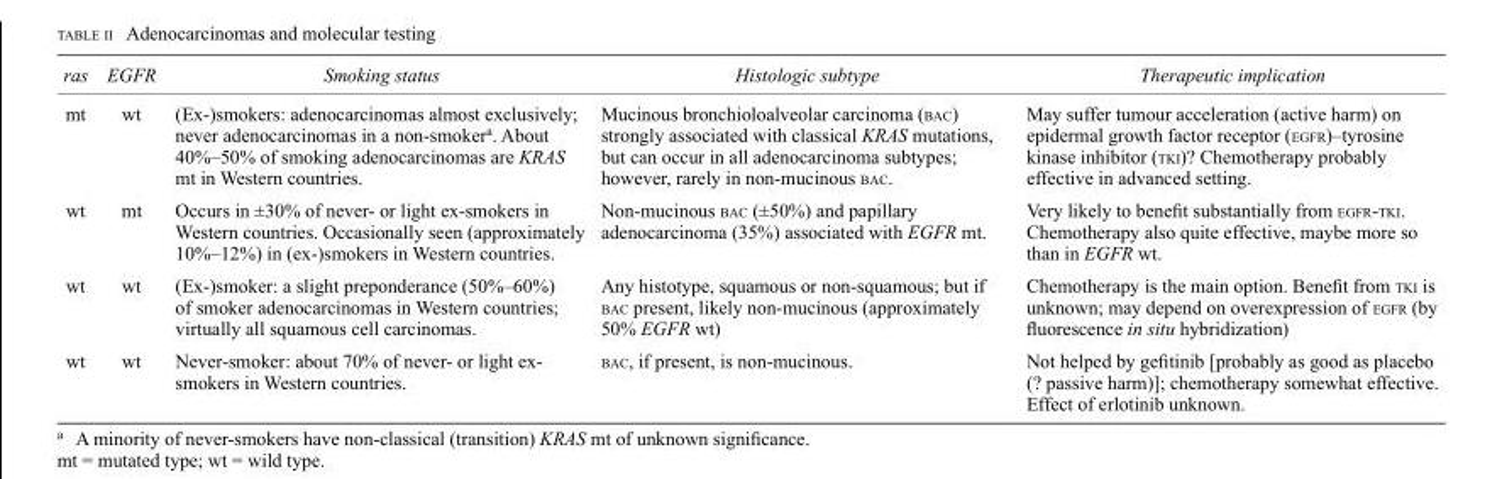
<table><thead><tr><td>ras</td><td>EGFR</td><td>Smoking status</td><td>Histologic subtype</td><td>Therapeutic implication</td></tr></thead><tbody><tr><td>mt</td><td>wt</td><td>(Ex-)smokers: adenocarcinomas almost exclusively; never adenocarcinomas in a non-smoker<sup>a</sup>. About 40%–50% of smoking adenocarcinomas are KRAS mt in Western countries.</td><td>Mucinous bronchioloalveolar carcinoma (bac) strongly associated with classical KRAS mutations, but can occur in all adenocarcinoma subtypes; however, rarely in non-mucinous bac.</td><td>May suffer tumour acceleration (active harm) on epidermal growth factor receptor (egfr)–tyrosine kinase inhibitor (tki)? Chemotherapy probably effective in advanced setting.</td></tr><tr><td>wt</td><td>mt</td><td>Occurs in ±30% of never- or light ex-smokers in Western countries. Occasionally seen (approximately 10%–12%) in (ex-)smokers in Western countries.</td><td>Non-mucinous bac (±50%) and papillary adenocarcinoma (35%) associated with EGFR mt.</td><td>Very likely to benefit substantially from egfr-tki. Chemotherapy also quite effective, maybe more so than in EGFR wt.</td></tr><tr><td>wt</td><td>wt</td><td>(Ex-)smoker: a slight preponderance (50%–60%) of smoker adenocarcinomas in Western countries; virtually all squamous cell carcinomas.</td><td>Any histotype, squamous or non-squamous; but if bac present, likely non-mucinous (approximately 50% EGFR wt)</td><td>Chemotherapy is the main option. Benefit from tki is unknown; may depend on overexpression of egfr (by fluorescence in situ hybridization)</td></tr><tr><td>wt</td><td>wt</td><td>Never-smoker: about 70% of never- or light ex- smokers in Western countries.</td><td>bac, if present, is non-mucinous.</td><td>Not helped by gefitinib [probably as good as placebo (? passive harm)]; chemotherapy somewhat effective. Effect of erlotinib unknown.</td></tr></tbody></table>